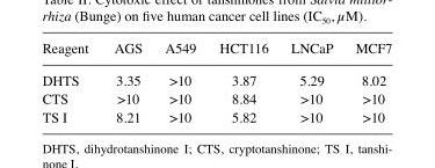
<table><thead><tr><td>Reagent</td><td>AGS</td><td>A549</td><td>HCT116</td><td>LNCaP</td><td>MCF7</td></tr></thead><tbody><tr><td>DHTS</td><td>3.35</td><td>&gt;10</td><td>3.87</td><td>5.29</td><td>8.02</td></tr><tr><td>CTS</td><td>&gt;10</td><td>&gt;10</td><td>8.84</td><td>&gt;10</td><td>&gt;10</td></tr><tr><td>TS I</td><td>8.21</td><td>&gt;10</td><td>5.82</td><td>&gt;10</td><td>&gt;10</td></tr></tbody></table>